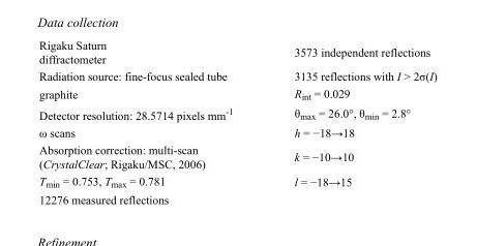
<table><tbody><tr><td>Rigaku Saturn diffractometer</td><td>3573 independent reflections</td></tr><tr><td>Radiation source: fine-focus sealed tube</td><td>3135 reflections with I &gt; 2σ(I)</td></tr><tr><td>graphite</td><td>R<sub>int</sub> = 0.029</td></tr><tr><td>Detector resolution: 28.5714 pixels mm<sup>-1</sup></td><td>θ<sub>max</sub> = 26.0°, θ<sub>min</sub> = 2.8°</td></tr><tr><td>ω scans</td><td>h = −18→18</td></tr><tr><td>Absorption correction: multi-scan (CrystalClear; Rigaku/MSC, 2006)</td><td>k = −10→10</td></tr><tr><td>T<sub>min</sub> = 0.753, T<sub>max</sub> = 0.781</td><td>l = −18→15</td></tr><tr><td>12276 measured reflections</td><td></td></tr></tbody></table>